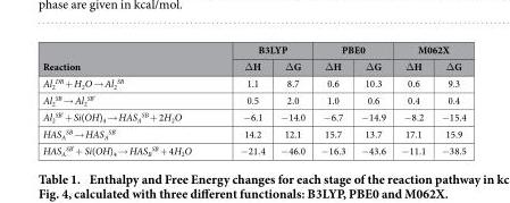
<table><thead><tr><td rowspan="2">Reaction</td><td colspan="2">B3LYP</td><td colspan="2">PBE0</td><td colspan="2">M062X</td></tr><tr><td>Δ H</td><td>Δ G</td><td>Δ H</td><td>Δ G</td><td>Δ H</td><td>Δ G</td></tr></thead><tbody><tr><td>Al<sub>2</sub> <sup>DB</sup> + H<sub>2</sub>O → Al<sub>2</sub> <sup>SB</sup></td><td>1.1</td><td>8.7</td><td>0.6</td><td>10.3</td><td>0.6</td><td>9.3</td></tr><tr><td>Al<sub>2</sub> <sup>SB</sup> → Al<sub>2</sub> <sup>SB’</sup></td><td>0.5</td><td>2.0</td><td>1.0</td><td>0.6</td><td>0.4</td><td>0.4</td></tr><tr><td>Al<sub>2</sub> <sup>SB’</sup> + Si(OH)<sub>4</sub> → HAS<sub>A</sub> <sup>SB</sup> + 2H<sub>2</sub>O</td><td>− 6.1</td><td>− 14.0</td><td>− 6.7</td><td>− 14.9</td><td>− 8.2</td><td>− 15.4</td></tr><tr><td>HAS<sub>A</sub> <sup>SB</sup> → HAS<sub>A</sub> <sup>SB’</sup></td><td>14.2</td><td>12.1</td><td>15.7</td><td>13.7</td><td>17.1</td><td>15.9</td></tr><tr><td>HAS<sub>A</sub> <sup>SB’</sup> + Si(OH)<sub>4</sub> → HAS<sub>B</sub> <sup>SB</sup> + 4H<sub>2</sub>O</td><td>− 21.4</td><td>− 46.0</td><td>− 16.3</td><td>− 43.6</td><td>− 11.1</td><td>− 38.5</td></tr></tbody></table>